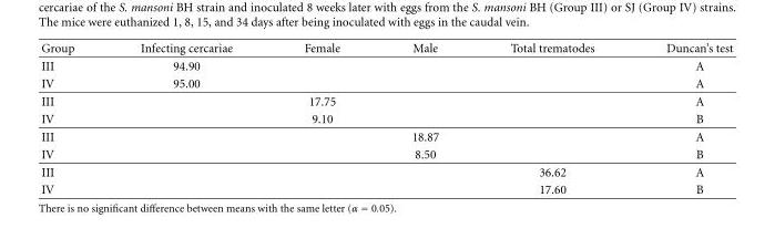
<table><thead><tr><td>Group</td><td>Infecting cercariae</td><td>Female</td><td>Male</td><td>Total trematodes</td><td>Duncan’s test</td></tr></thead><tbody><tr><td>III</td><td>94.90</td><td></td><td></td><td></td><td>A</td></tr><tr><td>IV</td><td>95.00</td><td></td><td></td><td></td><td>A</td></tr><tr><td>III</td><td></td><td>17.75</td><td></td><td></td><td>A</td></tr><tr><td>IV</td><td></td><td>9.10</td><td></td><td></td><td>B</td></tr><tr><td>III</td><td></td><td></td><td>18.87</td><td></td><td>A</td></tr><tr><td>IV</td><td></td><td></td><td>8.50</td><td></td><td>B</td></tr><tr><td>III</td><td></td><td></td><td></td><td>36.62</td><td>A</td></tr><tr><td>IV</td><td></td><td></td><td></td><td>17.60</td><td>B</td></tr></tbody></table>